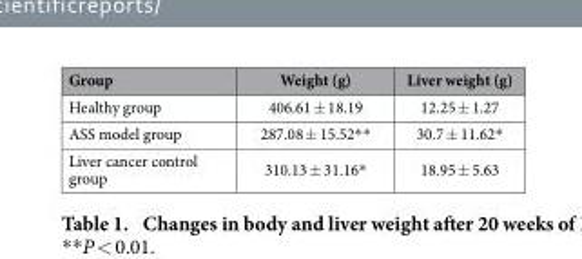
<table><thead><tr><td>Group</td><td>Weight (g)</td><td>Liver weight (g)</td></tr></thead><tbody><tr><td>Healthy group</td><td>406.61 ± 18.19</td><td>12.25 ± 1.27</td></tr><tr><td>ASS model group</td><td>287.08 ± 15.52**</td><td>30.7 ± 11.62*</td></tr><tr><td>Liver cancer control group</td><td>310.13 ± 31.16*</td><td>18.95 ± 5.63</td></tr></tbody></table>